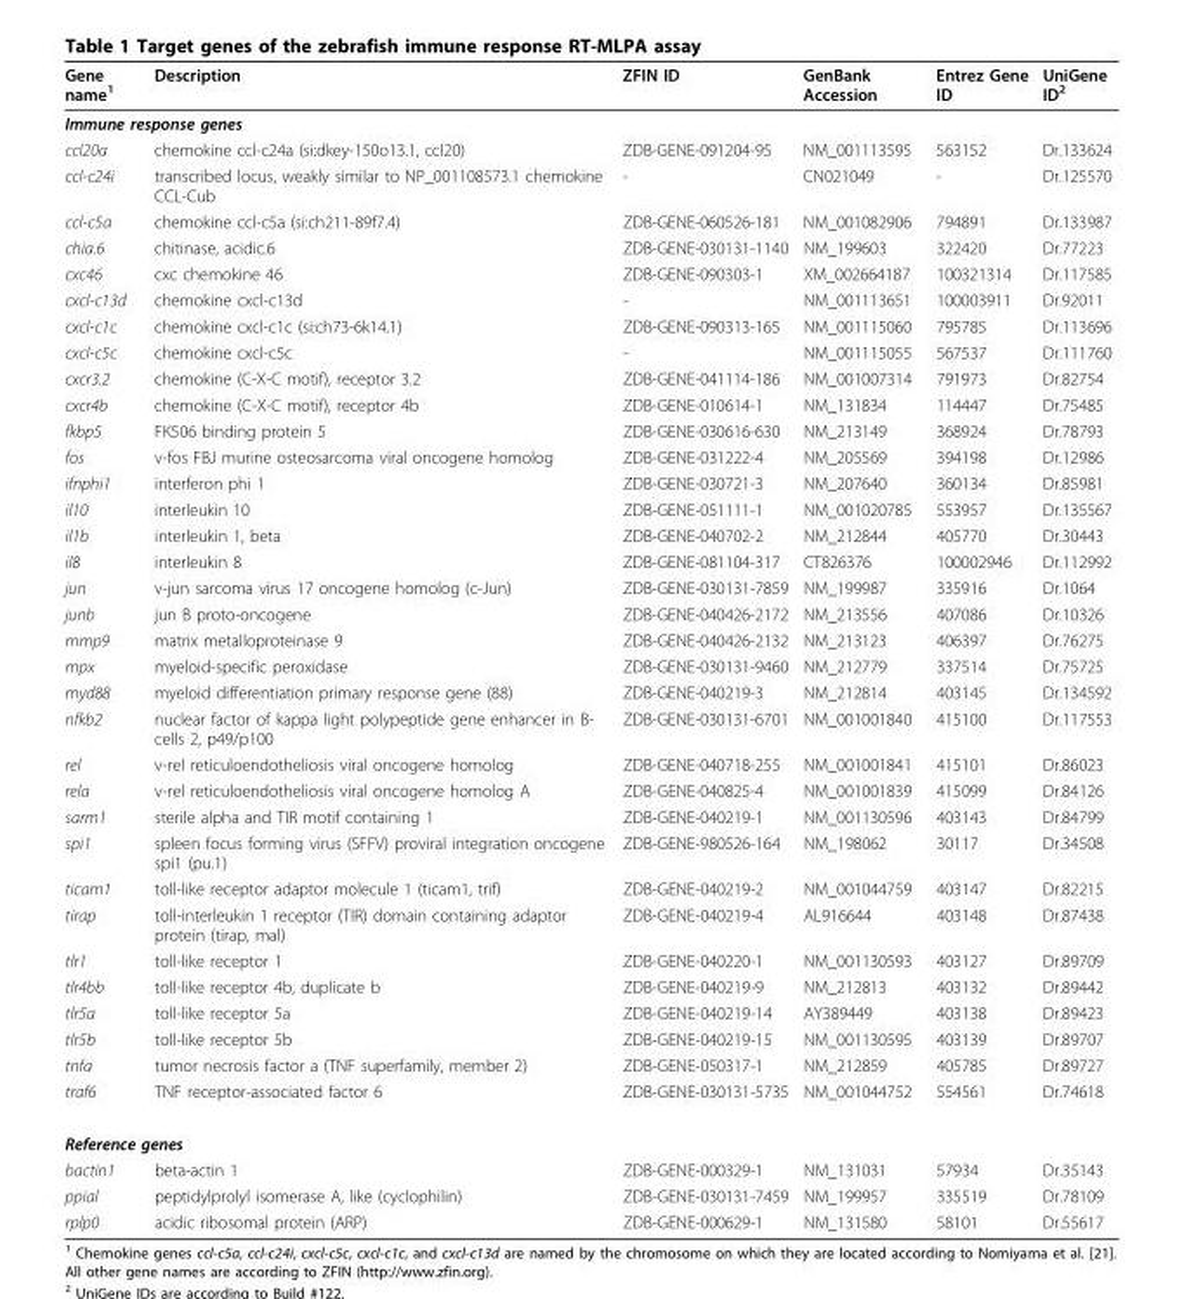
<table><thead><tr><td>Gene name<sup>1</sup></td><td>Description</td><td>ZFIN ID</td><td>GenBank Accession</td><td>Entrez Gene ID</td><td>UniGene ID<sup>2</sup></td></tr></thead><tbody><tr><td colspan="6">Immune response genes</td></tr><tr><td>ccl20a</td><td>chemokine ccl-c24a (si:dkey-150o13.1, ccl20)</td><td>ZDB-GENE-091204-95</td><td>NM_001113595</td><td>563152</td><td>Dr.133624</td></tr><tr><td>ccl-c24i</td><td>transcribed locus, weakly similar to NP_001108573.1 chemokine CCL-Cub</td><td>-</td><td>CN021049</td><td>-</td><td>Dr.125570</td></tr><tr><td>ccl-c5a</td><td>chemokine ccl-c5a (si:ch211-89f7.4)</td><td>ZDB-GENE-060526-181</td><td>NM_001082906</td><td>794891</td><td>Dr.133987</td></tr><tr><td>chia.6</td><td>chitinase, acidic.6</td><td>ZDB-GENE-030131-1140</td><td>NM_199603</td><td>322420</td><td>Dr.77223</td></tr><tr><td>cxc46</td><td>cxc chemokine 46</td><td>ZDB-GENE-090303-1</td><td>XM_002664187</td><td>100321314</td><td>Dr.117585</td></tr><tr><td>cxcl-c13d</td><td>chemokine cxcl-c13d</td><td>-</td><td>NM_001113651</td><td>100003911</td><td>Dr.92011</td></tr><tr><td>cxcl-c1c</td><td>chemokine cxcl-c1c (si:ch73-6k14.1)</td><td>ZDB-GENE-090313-165</td><td>NM_001115060</td><td>795785</td><td>Dr.113696</td></tr><tr><td>cxcl-c5c</td><td>chemokine cxcl-c5c</td><td>-</td><td>NM_001115055</td><td>567537</td><td>Dr.111760</td></tr><tr><td>cxcr3.2</td><td>chemokine (C-X-C motif), receptor 3.2</td><td>ZDB-GENE-041114-186</td><td>NM_001007314</td><td>791973</td><td>Dr.82754</td></tr><tr><td>cxcr4b</td><td>chemokine (C-X-C motif), receptor 4b</td><td>ZDB-GENE-010614-1</td><td>NM_131834</td><td>114447</td><td>Dr.75485</td></tr><tr><td>fkbp5</td><td>FK506 binding protein 5</td><td>ZDB-GENE-030616-630</td><td>NM_213149</td><td>368924</td><td>Dr.78793</td></tr><tr><td>fos</td><td>v-fos FBJ murine osteosarcoma viral oncogene homolog</td><td>ZDB-GENE-031222-4</td><td>NM_205569</td><td>394198</td><td>Dr.12986</td></tr><tr><td>ifnphi1</td><td>interferon phi 1</td><td>ZDB-GENE-030721-3</td><td>NM_207640</td><td>360134</td><td>Dr.85981</td></tr><tr><td>il10</td><td>interleukin 10</td><td>ZDB-GENE-051111-1</td><td>NM_001020785</td><td>553957</td><td>Dr.135567</td></tr><tr><td>il1b</td><td>interleukin 1, beta</td><td>ZDB-GENE-040702-2</td><td>NM_212844</td><td>405770</td><td>Dr.30443</td></tr><tr><td>il8</td><td>interleukin 8</td><td>ZDB-GENE-081104-317</td><td>CT826376</td><td>100002946</td><td>Dr.112992</td></tr><tr><td>jun</td><td>v-jun sarcoma virus 17 oncogene homolog (c-Jun)</td><td>ZDB-GENE-030131-7859</td><td>NM_199987</td><td>335916</td><td>Dr.1064</td></tr><tr><td>junb</td><td>jun B proto-oncogene</td><td>ZDB-GENE-040426-2172</td><td>NM_213556</td><td>407086</td><td>Dr.10326</td></tr><tr><td>mmp9</td><td>matrix metalloproteinase 9</td><td>ZDB-GENE-040426-2132</td><td>NM_213123</td><td>406397</td><td>Dr.76275</td></tr><tr><td>mpx</td><td>myeloid-specific peroxidase</td><td>ZDB-GENE-030131-9460</td><td>NM_212779</td><td>337514</td><td>Dr.75725</td></tr><tr><td>myd88</td><td>myeloid differentiation primary response gene (88)</td><td>ZDB-GENE-040219-3</td><td>NM_212814</td><td>403145</td><td>Dr.134592</td></tr><tr><td>nfkb2</td><td>nuclear factor of kappa light polypeptide gene enhancer in B- cells 2, p49/p100</td><td>ZDB-GENE-030131-6701</td><td>NM_001001840</td><td>415100</td><td>Dr.117553</td></tr><tr><td>rel</td><td>v-rel reticuloendotheliosis viral oncogene homolog</td><td>ZDB-GENE-040718-255</td><td>NM_001001841</td><td>415101</td><td>Dr.86023</td></tr><tr><td>rela</td><td>v-rel reticuloendotheliosis viral oncogene homolog A</td><td>ZDB-GENE-040825-4</td><td>NM_001001839</td><td>415099</td><td>Dr.84126</td></tr><tr><td>sarm1</td><td>sterile alpha and TIR motif containing 1</td><td>ZDB-GENE-040219-1</td><td>NM_001130596</td><td>403143</td><td>Dr.84799</td></tr><tr><td>spi1</td><td>spleen focus forming virus (SFFV) proviral integration oncogene spi1 (pu.1)</td><td>ZDB-GENE-980526-164</td><td>NM_198062</td><td>30117</td><td>Dr.34508</td></tr><tr><td>ticam1</td><td>toll-like receptor adaptor molecule 1 (ticam1, trif)</td><td>ZDB-GENE-040219-2</td><td>NM_001044759</td><td>403147</td><td>Dr.82215</td></tr><tr><td>tirap</td><td>toll-interleukin 1 receptor (TIR) domain containing adaptor protein (tirap, mal)</td><td>ZDB-GENE-040219-4</td><td>AL916644</td><td>403148</td><td>Dr.87438</td></tr><tr><td>tlr1</td><td>toll-like receptor 1</td><td>ZDB-GENE-040220-1</td><td>NM_001130593</td><td>403127</td><td>Dr.89709</td></tr><tr><td>tlr4bb</td><td>toll-like receptor 4b, duplicate b</td><td>ZDB-GENE-040219-9</td><td>NM_212813</td><td>403132</td><td>Dr.89442</td></tr><tr><td>tlr5a</td><td>toll-like receptor 5a</td><td>ZDB-GENE-040219-14</td><td>AY389449</td><td>403138</td><td>Dr.89423</td></tr><tr><td>tlr5b</td><td>toll-like receptor 5b</td><td>ZDB-GENE-040219-15</td><td>NM_001130595</td><td>403139</td><td>Dr.89707</td></tr><tr><td>tnfa</td><td>tumor necrosis factor a (TNF superfamily, member 2)</td><td>ZDB-GENE-050317-1</td><td>NM_212859</td><td>405785</td><td>Dr.89727</td></tr><tr><td>traf6</td><td>TNF receptor-associated factor 6</td><td>ZDB-GENE-030131-5735</td><td>NM_001044752</td><td>554561</td><td>Dr.74618</td></tr><tr><td colspan="6">Reference genes</td></tr><tr><td>bactin1</td><td>beta-actin 1</td><td>ZDB-GENE-000329-1</td><td>NM_131031</td><td>57934</td><td>Dr.35143</td></tr><tr><td>ppial</td><td>peptidylprolyl isomerase A, like (cyclophilin)</td><td>ZDB-GENE-030131-7459</td><td>NM_199957</td><td>335519</td><td>Dr.78109</td></tr><tr><td>rplp0</td><td>acidic ribosomal protein (ARP)</td><td>ZDB-GENE-000629-1</td><td>NM_131580</td><td>58101</td><td>Dr.55617</td></tr></tbody></table>